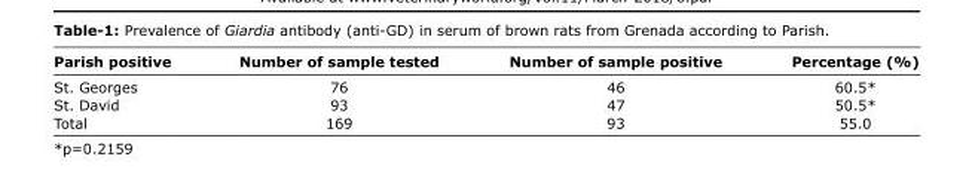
<table><thead><tr><td>Parish positive</td><td>Number of sample tested</td><td>Number of sample positive</td><td>Percentage (%)</td></tr></thead><tbody><tr><td>St. Georges</td><td>76</td><td>46</td><td>60.5*</td></tr><tr><td>St. David</td><td>93</td><td>47</td><td>50.5*</td></tr><tr><td>Total</td><td>169</td><td>93</td><td>55.0</td></tr></tbody></table>